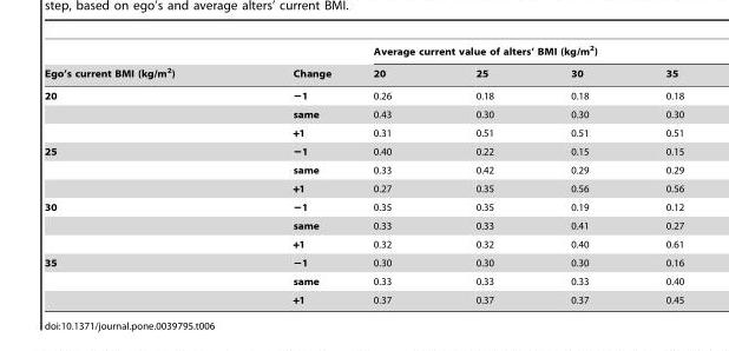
<table><thead><tr><td rowspan="2">Ego’s current BMI (kg/m<sup>2</sup>)</td><td rowspan="2">Change</td><td colspan="4">Average current value of alters’ BMI (kg/m<sup>2</sup>)</td></tr><tr><td>20</td><td>25</td><td>30</td><td>35</td></tr></thead><tbody><tr><td rowspan="3">20</td><td>−1</td><td>0.26</td><td>0.18</td><td>0.18</td><td>0.18</td></tr><tr><td>same</td><td>0.43</td><td>0.30</td><td>0.30</td><td>0.30</td></tr><tr><td>+1</td><td>0.31</td><td>0.51</td><td>0.51</td><td>0.51</td></tr><tr><td rowspan="3">25</td><td>−1</td><td>0.40</td><td>0.22</td><td>0.15</td><td>0.15</td></tr><tr><td>same</td><td>0.33</td><td>0.42</td><td>0.29</td><td>0.29</td></tr><tr><td>+1</td><td>0.27</td><td>0.35</td><td>0.56</td><td>0.56</td></tr><tr><td rowspan="3">30</td><td>−1</td><td>0.35</td><td>0.35</td><td>0.19</td><td>0.12</td></tr><tr><td>same</td><td>0.33</td><td>0.33</td><td>0.41</td><td>0.27</td></tr><tr><td>+1</td><td>0.32</td><td>0.32</td><td>0.40</td><td>0.61</td></tr><tr><td rowspan="3">35</td><td>−1</td><td>0.30</td><td>0.30</td><td>0.30</td><td>0.16</td></tr><tr><td>same</td><td>0.33</td><td>0.33</td><td>0.33</td><td>0.40</td></tr><tr><td>+1</td><td>0.37</td><td>0.37</td><td>0.37</td><td>0.45</td></tr></tbody></table>